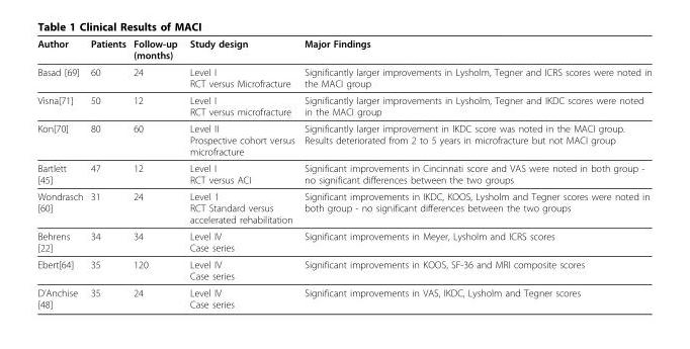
<table><thead><tr><td>Author</td><td>Patients</td><td>Follow-up (months)</td><td>Study design</td><td>Major Findings</td></tr></thead><tbody><tr><td>Basad [69]</td><td>60</td><td>24</td><td>Level I RCT versus Microfracture</td><td>Significantly larger improvements in Lysholm, Tegner and ICRS scores were noted in the MACI group</td></tr><tr><td>Visna[71]</td><td>50</td><td>12</td><td>Level I RCT versus microfracture</td><td>Significantly larger improvements in Lysholm, Tegner and IKDC scores were noted in the MACI group</td></tr><tr><td>Kon[70]</td><td>80</td><td>60</td><td>Level II Prospective cohort versus microfracture</td><td>Significantly larger improvement in IKDC score was noted in the MACI group. Results deteriorated from 2 to 5 years in microfracture but not MACI group</td></tr><tr><td>Bartlett [45]</td><td>47</td><td>12</td><td>Level I RCT versus ACI</td><td>Significant improvements in Cincinnati score and VAS were noted in both group - no significant differences between the two groups</td></tr><tr><td>Wondrasch [60]</td><td>31</td><td>24</td><td>Level 1 RCT Standard versus accelerated rehabilitation</td><td>Significant improvements in IKDC, KOOS, Lysholm and Tegner scores were noted in both group - no significant differences between the two groups</td></tr><tr><td>Behrens [22]</td><td>34</td><td>34</td><td>Level IV Case series</td><td>Significant improvements in Meyer, Lysholm and ICRS scores</td></tr><tr><td>Ebert[64]</td><td>35</td><td>120</td><td>Level IV Case series</td><td>Significant improvements in KOOS, SF-36 and MRI composite scores</td></tr><tr><td>D’Anchise [48]</td><td>35</td><td>24</td><td>Level IV Case series</td><td>Significant improvements in VAS, IKDC, Lysholm and Tegner scores</td></tr></tbody></table>